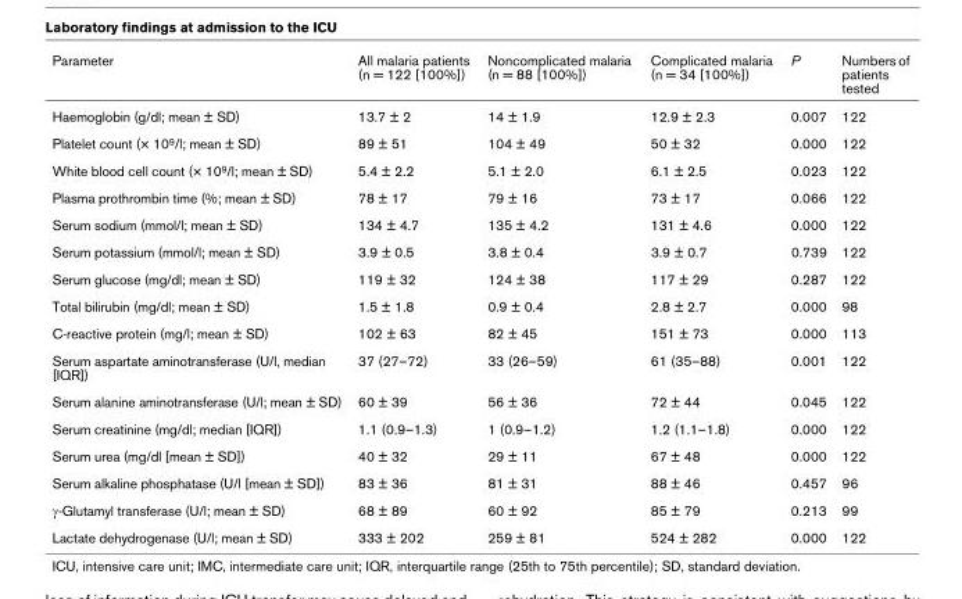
<table><thead><tr><td>Parameter</td><td>All malaria patients (n = 122 [100%])</td><td>Noncomplicated malaria (n = 88 [100%])</td><td>Complicated malaria (n = 34 [100%])</td><td>P</td><td>Numbers of patients tested</td></tr></thead><tbody><tr><td>Haemoglobin (g/dl; mean ± SD)</td><td>13.7 ± 2</td><td>14 ± 1.9</td><td>12.9 ± 2.3</td><td>0.007</td><td>122</td></tr><tr><td>Platelet count (× 10<sup>9</sup>/l; mean ± SD)</td><td>89 ± 51</td><td>104 ± 49</td><td>50 ± 32</td><td>0.000</td><td>122</td></tr><tr><td>White blood cell count (× 10<sup>9</sup>/l; mean ± SD)</td><td>5.4 ± 2.2</td><td>5.1 ± 2.0</td><td>6.1 ± 2.5</td><td>0.023</td><td>122</td></tr><tr><td>Plasma prothrombin time (%; mean ± SD)</td><td>78 ± 17</td><td>79 ± 16</td><td>73 ± 17</td><td>0.066</td><td>122</td></tr><tr><td>Serum sodium (mmol/l; mean ± SD)</td><td>134 ± 4.7</td><td>135 ± 4.2</td><td>131 ± 4.6</td><td>0.000</td><td>122</td></tr><tr><td>Serum potassium (mmol/l; mean ± SD)</td><td>3.9 ± 0.5</td><td>3.8 ± 0.4</td><td>3.9 ± 0.7</td><td>0.739</td><td>122</td></tr><tr><td>Serum glucose (mg/dl; mean ± SD)</td><td>119 ± 32</td><td>124 ± 38</td><td>117 ± 29</td><td>0.287</td><td>122</td></tr><tr><td>Total bilirubin (mg/dl; mean ± SD)</td><td>1.5 ± 1.8</td><td>0.9 ± 0.4</td><td>2.8 ± 2.7</td><td>0.000</td><td>98</td></tr><tr><td>C-reactive protein (mg/l; mean ± SD)</td><td>102 ± 63</td><td>82 ± 45</td><td>151 ± 73</td><td>0.000</td><td>113</td></tr><tr><td>Serum aspartate aminotransferase (U/l, median [IQR])</td><td>37 (27–72)</td><td>33 (26–59)</td><td>61 (35–88)</td><td>0.001</td><td>122</td></tr><tr><td>Serum alanine aminotransferase (U/l; mean ± SD)</td><td>60 ± 39</td><td>56 ± 36</td><td>72 ± 44</td><td>0.045</td><td>122</td></tr><tr><td>Serum creatinine (mg/dl; median [IQR])</td><td>1.1 (0.9–1.3)</td><td>1 (0.9–1.2)</td><td>1.2 (1.1–1.8)</td><td>0.000</td><td>122</td></tr><tr><td>Serum urea (mg/dl [mean ± SD])</td><td>40 ± 32</td><td>29 ± 11</td><td>67 ± 48</td><td>0.000</td><td>122</td></tr><tr><td>Serum alkaline phosphatase (U/l [mean ± SD])</td><td>83 ± 36</td><td>81 ± 31</td><td>88 ± 46</td><td>0.457</td><td>96</td></tr><tr><td>γ-Glutamyl transferase (U/l; mean ± SD)</td><td>68 ± 89</td><td>60 ± 92</td><td>85 ± 79</td><td>0.213</td><td>99</td></tr><tr><td>Lactate dehydrogenase (U/l; mean ± SD)</td><td>333 ± 202</td><td>259 ± 81</td><td>524 ± 282</td><td>0.000</td><td>122</td></tr></tbody></table>